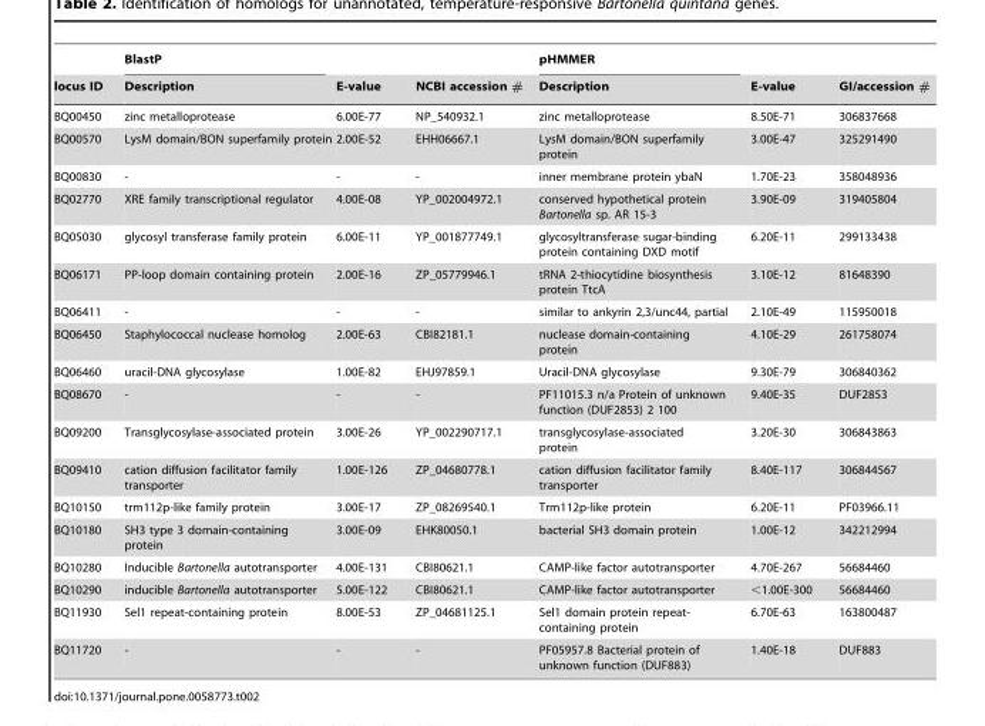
<table><thead><tr><td rowspan="2">locus ID</td><td rowspan="2">BlastP Description</td><td rowspan="2">E-value</td><td rowspan="2">NCBI accession #</td><td rowspan="2">pHMMER Description</td><td rowspan="2">E-value</td><td rowspan="2">GI/accession #</td></tr><tr></tr></thead><tbody><tr><td>BQ00450</td><td>zinc metalloprotease</td><td>6.00E-77</td><td>NP_540932.1</td><td>zinc metalloprotease</td><td>8.50E-71</td><td>306837668</td></tr><tr><td>BQ00570</td><td>LysM domain/BON superfamily protein</td><td>2.00E-52</td><td>EHH06667.1</td><td>LysM domain/BON superfamily protein</td><td>3.00E-47</td><td>325291490</td></tr><tr><td>BQ00830</td><td>-</td><td>-</td><td>-</td><td>inner membrane protein ybaN</td><td>1.70E-23</td><td>358048936</td></tr><tr><td>BQ02770</td><td>XRE family transcriptional regulator</td><td>4.00E-08</td><td>YP_002004972.1</td><td>conserved hypothetical protein Bartonella sp. AR 15-3</td><td>3.90E-09</td><td>319405804</td></tr><tr><td>BQ05030</td><td>glycosyl transferase family protein</td><td>6.00E-11</td><td>YP_001877749.1</td><td>glycosyltransferase sugar-binding protein containing DXD motif</td><td>6.20E-11</td><td>299133438</td></tr><tr><td>BQ06171</td><td>PP-loop domain containing protein</td><td>2.00E-16</td><td>ZP_05779946.1</td><td>tRNA 2-thiocytidine biosynthesis protein TtcA</td><td>3.10E-12</td><td>81648390</td></tr><tr><td>BQ06411</td><td>-</td><td>-</td><td>-</td><td>similar to ankyrin 2,3/unc44, partial</td><td>2.10E-49</td><td>115950018</td></tr><tr><td>BQ06450</td><td>Staphylococcal nuclease homolog</td><td>2.00E-63</td><td>CBI82181.1</td><td>nuclease domain-containing protein</td><td>4.10E-29</td><td>261758074</td></tr><tr><td>BQ06460</td><td>uracil-DNA glycosylase</td><td>1.00E-82</td><td>EHJ97859.1</td><td>Uracil-DNA glycosylase</td><td>9.30E-79</td><td>306840362</td></tr><tr><td>BQ08670</td><td>-</td><td>-</td><td>-</td><td>PF11015.3 n/a Protein of unknown function (DUF2853) 2 100</td><td>9.40E-35</td><td>DUF2853</td></tr><tr><td>BQ09200</td><td>Transglycosylase-associated protein</td><td>3.00E-26</td><td>YP_002290717.1</td><td>transglycosylase-associated protein</td><td>3.20E-30</td><td>306843863</td></tr><tr><td>BQ09410</td><td>cation diffusion facilitator family transporter</td><td>1.00E-126</td><td>ZP_04680778.1</td><td>cation diffusion facilitator family transporter</td><td>8.40E-117</td><td>306844567</td></tr><tr><td>BQ10150</td><td>trm112p-like family protein</td><td>3.00E-17</td><td>ZP_08269540.1</td><td>Trm112p-like protein</td><td>6.20E-11</td><td>PF03966.11</td></tr><tr><td>BQ10180</td><td>SH3 type 3 domain-containing protein</td><td>3.00E-09</td><td>EHK80050.1</td><td>bacterial SH3 domain protein</td><td>1.00E-12</td><td>342212994</td></tr><tr><td>BQ10280</td><td>Inducible Bartonella autotransporter</td><td>4.00E-131</td><td>CBI80621.1</td><td>CAMP-like factor autotransporter</td><td>4.70E-267</td><td>56684460</td></tr><tr><td>BQ10290</td><td>inducible Bartonella autotransporter</td><td>5.00E-122</td><td>CBI80621.1</td><td>CAMP-like factor autotransporter</td><td>&lt;1.00E-300</td><td>56684460</td></tr><tr><td>BQ11930</td><td>Sel1 repeat-containing protein</td><td>8.00E-53</td><td>ZP_04681125.1</td><td>Sel1 domain protein repeat- containing protein</td><td>6.70E-63</td><td>163800487</td></tr><tr><td>BQ11720</td><td>-</td><td>-</td><td>-</td><td>PF05957.8 Bacterial protein of unknown function (DUF883)</td><td>1.40E-18</td><td>DUF883</td></tr></tbody></table>